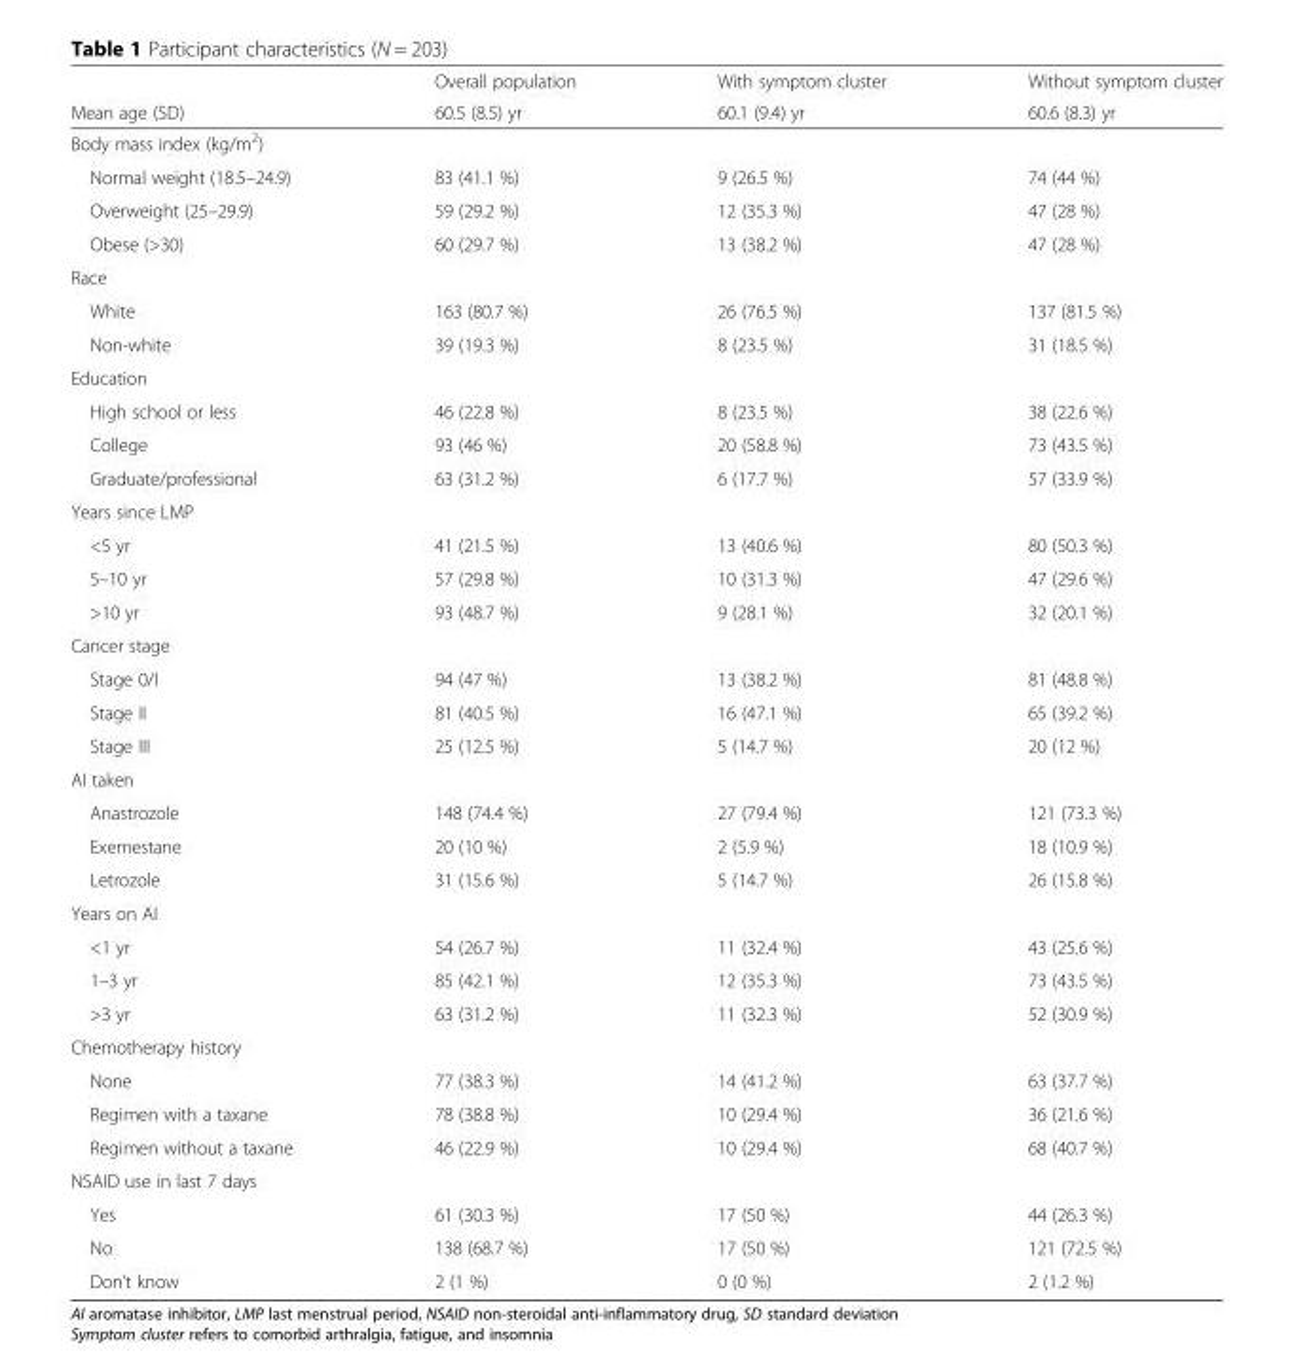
<table><thead><tr><td rowspan="2">Mean age (SD)</td><td rowspan="2">Overall population 60.5 (8.5) yr</td><td rowspan="2">With symptom cluster 60.1 (9.4) yr</td><td rowspan="2">Without symptom cluster 60.6 (8.3) yr</td></tr><tr></tr></thead><tbody><tr><td colspan="4">Body mass index (kg/m<sup>2</sup>)</td></tr><tr><td>Normal weight (18.5–24.9)</td><td>83 (41.1 %)</td><td>9 (26.5 %)</td><td>74 (44 %)</td></tr><tr><td>Overweight (25–29.9)</td><td>59 (29.2 %)</td><td>12 (35.3 %)</td><td>47 (28 %)</td></tr><tr><td>Obese (&gt;30)</td><td>60 (29.7 %)</td><td>13 (38.2 %)</td><td>47 (28 %)</td></tr><tr><td colspan="4">Race</td></tr><tr><td>White</td><td>163 (80.7 %)</td><td>26 (76.5 %)</td><td>137 (81.5 %)</td></tr><tr><td>Non-white</td><td>39 (19.3 %)</td><td>8 (23.5 %)</td><td>31 (18.5 %)</td></tr><tr><td colspan="4">Education</td></tr><tr><td>High school or less</td><td>46 (22.8 %)</td><td>8 (23.5 %)</td><td>38 (22.6 %)</td></tr><tr><td>College</td><td>93 (46 %)</td><td>20 (58.8 %)</td><td>73 (43.5 %)</td></tr><tr><td>Graduate/professional</td><td>63 (31.2 %)</td><td>6 (17.7 %)</td><td>57 (33.9 %)</td></tr><tr><td colspan="4">Years since LMP</td></tr><tr><td>&lt;5 yr</td><td>41 (21.5 %)</td><td>13 (40.6 %)</td><td>80 (50.3 %)</td></tr><tr><td>5–10 yr</td><td>57 (29.8 %)</td><td>10 (31.3 %)</td><td>47 (29.6 %)</td></tr><tr><td>&gt;10 yr</td><td>93 (48.7 %)</td><td>9 (28.1 %)</td><td>32 (20.1 %)</td></tr><tr><td colspan="4">Cancer stage</td></tr><tr><td>Stage 0/I</td><td>94 (47 %)</td><td>13 (38.2 %)</td><td>81 (48.8 %)</td></tr><tr><td>Stage II</td><td>81 (40.5 %)</td><td>16 (47.1 %)</td><td>65 (39.2 %)</td></tr><tr><td>Stage III</td><td>25 (12.5 %)</td><td>5 (14.7 %)</td><td>20 (12 %)</td></tr><tr><td colspan="4">AI taken</td></tr><tr><td>Anastrozole</td><td>148 (74.4 %)</td><td>27 (79.4 %)</td><td>121 (73.3 %)</td></tr><tr><td>Exemestane</td><td>20 (10 %)</td><td>2 (5.9 %)</td><td>18 (10.9 %)</td></tr><tr><td>Letrozole</td><td>31 (15.6 %)</td><td>5 (14.7 %)</td><td>26 (15.8 %)</td></tr><tr><td colspan="4">Years on AI</td></tr><tr><td>&lt;1 yr</td><td>54 (26.7 %)</td><td>11 (32.4 %)</td><td>43 (25.6 %)</td></tr><tr><td>1–3 yr</td><td>85 (42.1 %)</td><td>12 (35.3 %)</td><td>73 (43.5 %)</td></tr><tr><td>&gt;3 yr</td><td>63 (31.2 %)</td><td>11 (32.3 %)</td><td>52 (30.9 %)</td></tr><tr><td colspan="4">Chemotherapy history</td></tr><tr><td>None</td><td>77 (38.3 %)</td><td>14 (41.2 %)</td><td>63 (37.7 %)</td></tr><tr><td>Regimen with a taxane</td><td>78 (38.8 %)</td><td>10 (29.4 %)</td><td>36 (21.6 %)</td></tr><tr><td>Regimen without a taxane</td><td>46 (22.9 %)</td><td>10 (29.4 %)</td><td>68 (40.7 %)</td></tr><tr><td colspan="4">NSAID use in last 7 days</td></tr><tr><td>Yes</td><td>61 (30.3 %)</td><td>17 (50 %)</td><td>44 (26.3 %)</td></tr><tr><td>No</td><td>138 (68.7 %)</td><td>17 (50 %)</td><td>121 (72.5 %)</td></tr><tr><td>Don’t know</td><td>2 (1 %)</td><td>0 (0 %)</td><td>2 (1.2 %)</td></tr></tbody></table>